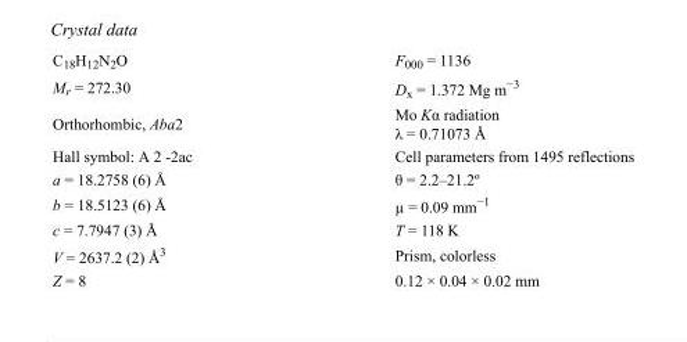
<table><tbody><tr><td>C<sub>18</sub>H<sub>12</sub>N<sub>2</sub>O</td><td>F000 = 1136</td></tr><tr><td>M<sub>r</sub> = 272.30</td><td>D<sub>x</sub> = 1.372 Mg m<sup>−3</sup></td></tr><tr><td>Orthorhombic, Aba2</td><td>Mo Kα radiation λ = 0.71073 Å</td></tr><tr><td>Hall symbol: A 2 -2ac</td><td>Cell parameters from 1495 reflections</td></tr><tr><td>a = 18.2758 (6) Å</td><td>θ = 2.2–21.2º</td></tr><tr><td>b = 18.5123 (6) Å</td><td>µ = 0.09 mm<sup>−1</sup></td></tr><tr><td>c = 7.7947 (3) Å</td><td>T = 118 K</td></tr><tr><td>V = 2637.2 (2) Å<sup>3</sup></td><td>Prism, colorless</td></tr><tr><td>Z = 8</td><td>0.12 × 0.04 × 0.02 mm</td></tr></tbody></table>